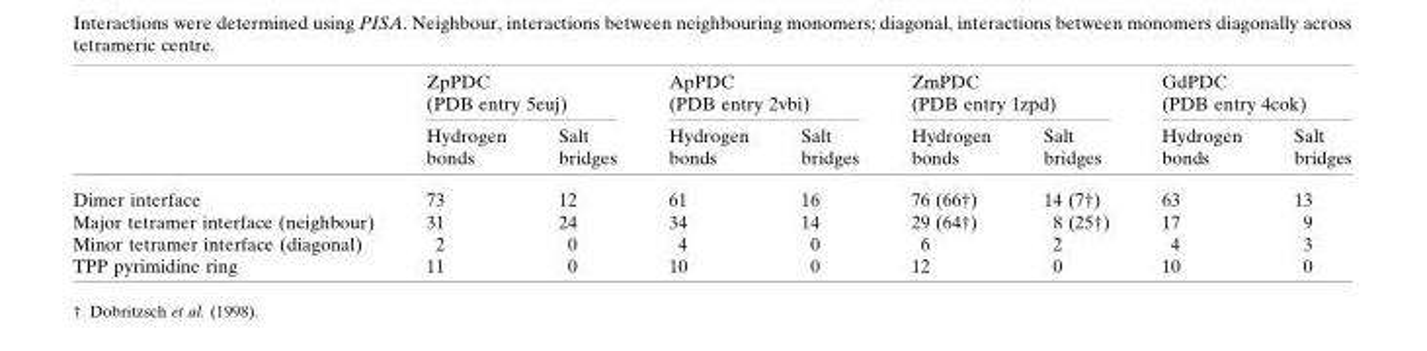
<table><thead><tr><td rowspan="2"></td><td colspan="2">ZpPDC (PDB entry 5euj)</td><td colspan="2">ApPDC (PDB entry 2vbi)</td><td colspan="2">ZmPDC (PDB entry 1zpd)</td><td colspan="2">GdPDC (PDB entry 4cok)</td></tr><tr><td>Hydrogen bonds</td><td>Salt bridges</td><td>Hydrogen bonds</td><td>Salt bridges</td><td>Hydrogen bonds</td><td>Salt bridges</td><td>Hydrogen bonds</td><td>Salt bridges</td></tr></thead><tbody><tr><td>Dimer interface</td><td>73</td><td>12</td><td>61</td><td>16</td><td>76 (66†)</td><td>14 (7†)</td><td>63</td><td>13</td></tr><tr><td>Major tetramer interface (neighbour)</td><td>31</td><td>24</td><td>34</td><td>14</td><td>29 (64†)</td><td>8 (25†)</td><td>17</td><td>9</td></tr><tr><td>Minor tetramer interface (diagonal)</td><td>2</td><td>0</td><td>4</td><td>0</td><td>6</td><td>2</td><td>4</td><td>3</td></tr><tr><td>TPP pyrimidine ring</td><td>11</td><td>0</td><td>10</td><td>0</td><td>12</td><td>0</td><td>10</td><td>0</td></tr></tbody></table>